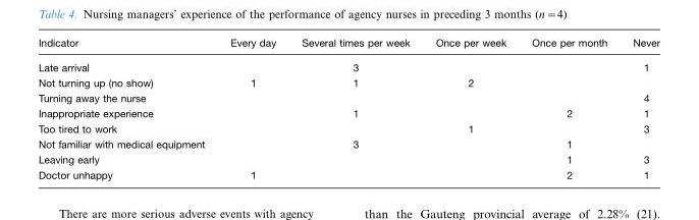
<table><thead><tr><td>Indicator</td><td>Every day</td><td>Several times per week</td><td>Once per week</td><td>Once per month</td><td>Never</td></tr></thead><tbody><tr><td>Late arrival</td><td></td><td>3</td><td></td><td></td><td>1</td></tr><tr><td>Not turning up (no show)</td><td>1</td><td>1</td><td>2</td><td></td><td></td></tr><tr><td>Turning away the nurse</td><td></td><td></td><td></td><td></td><td>4</td></tr><tr><td>Inappropriate experience</td><td></td><td>1</td><td></td><td>2</td><td>1</td></tr><tr><td>Too tired to work</td><td></td><td></td><td>1</td><td></td><td>3</td></tr><tr><td>Not familiar with medical equipment</td><td></td><td>3</td><td></td><td>1</td><td></td></tr><tr><td>Leaving early</td><td></td><td></td><td></td><td>1</td><td>3</td></tr><tr><td>Doctor unhappy</td><td>1</td><td></td><td></td><td>2</td><td>1</td></tr></tbody></table>